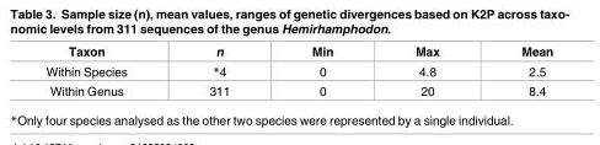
<table><thead><tr><td>Taxon</td><td>n</td><td>Min</td><td>Max</td><td>Mean</td></tr></thead><tbody><tr><td>Within Species</td><td>*4</td><td>0</td><td>4.8</td><td>2.5</td></tr><tr><td>Within Genus</td><td>311</td><td>0</td><td>20</td><td>8.4</td></tr></tbody></table>